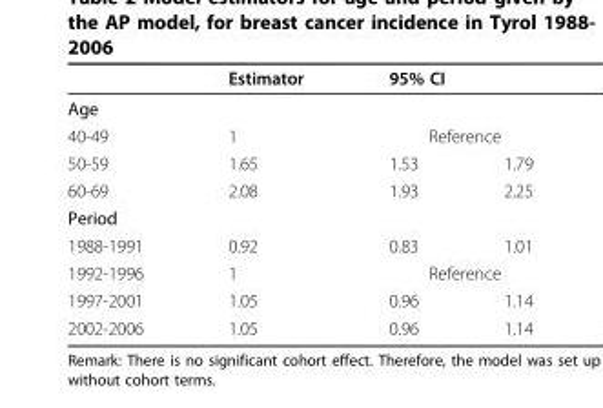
<table><thead><tr><td rowspan="2">Age</td><td rowspan="2">Estimator</td><td colspan="2">95% CI</td></tr><tr><td></td><td></td></tr></thead><tbody><tr><td>40-49</td><td>1</td><td colspan="2">Reference</td></tr><tr><td>50-59</td><td>1.65</td><td>1.53</td><td>1.79</td></tr><tr><td>60-69</td><td>2.08</td><td>1.93</td><td>2.25</td></tr><tr><td colspan="4">Period</td></tr><tr><td>1988-1991</td><td>0.92</td><td>0.83</td><td>1.01</td></tr><tr><td>1992-1996</td><td>1</td><td colspan="2">Reference</td></tr><tr><td>1997-2001</td><td>1.05</td><td>0.96</td><td>1.14</td></tr><tr><td>2002-2006</td><td>1.05</td><td>0.96</td><td>1.14</td></tr></tbody></table>